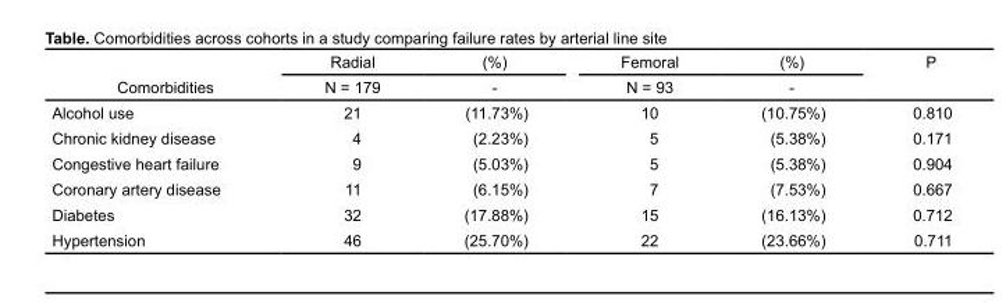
<table><thead><tr><td rowspan="2">Comorbidities</td><td rowspan="2">Radial N = 179</td><td rowspan="2">(%) -</td><td rowspan="2">Femoral N = 93</td><td rowspan="2">(%) -</td><td rowspan="2">P</td></tr><tr></tr></thead><tbody><tr><td>Alcohol use</td><td>21</td><td>(11.73%)</td><td>10</td><td>(10.75%)</td><td>0.810</td></tr><tr><td>Chronic kidney disease</td><td>4</td><td>(2.23%)</td><td>5</td><td>(5.38%)</td><td>0.171</td></tr><tr><td>Congestive heart failure</td><td>9</td><td>(5.03%)</td><td>5</td><td>(5.38%)</td><td>0.904</td></tr><tr><td>Coronary artery disease</td><td>11</td><td>(6.15%)</td><td>7</td><td>(7.53%)</td><td>0.667</td></tr><tr><td>Diabetes</td><td>32</td><td>(17.88%)</td><td>15</td><td>(16.13%)</td><td>0.712</td></tr><tr><td>Hypertension</td><td>46</td><td>(25.70%)</td><td>22</td><td>(23.66%)</td><td>0.711</td></tr></tbody></table>